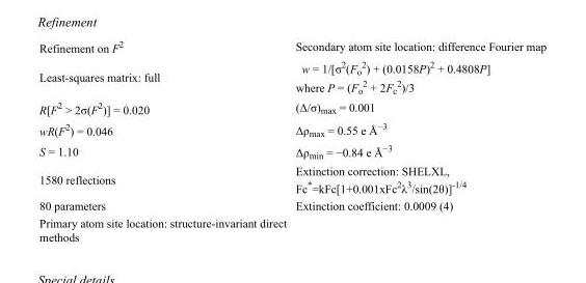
<table><tbody><tr><td>Refinement on F<sup>2</sup></td><td>Secondary atom site location: difference Fourier map</td></tr><tr><td>Least-squares matrix: full</td><td>w = 1/[σ<sup>2</sup>(F<sub>o</sub> <sup>2</sup>) + (0.0158P)<sup>2</sup> + 0.4808P] where P = (F<sub>o</sub> <sup>2</sup> + 2F<sub>c</sub> <sup>2</sup>)/3</td></tr><tr><td>R[F<sup>2</sup> &gt; 2σ(F<sup>2</sup>)] = 0.020</td><td>(Δ/σ)<sub>max</sub> = 0.001</td></tr><tr><td>wR(F<sup>2</sup>) = 0.046</td><td>Δρ<sub>max</sub> = 0.55 e Å<sup>−3</sup></td></tr><tr><td>S = 1.10</td><td>Δρ<sub>min</sub> = −0.84 e Å<sup>−3</sup></td></tr><tr><td>1580 reflections</td><td>Extinction correction: SHELXL, Fc*=kFc[1+0.001xFc<sup>2</sup>λ<sup>3</sup>/sin(2θ)]<sup>-1/4</sup></td></tr><tr><td>80 parameters</td><td>Extinction coefficient: 0.0009 (4)</td></tr><tr><td>Primary atom site location: structure-invariant direct methods</td><td></td></tr></tbody></table>